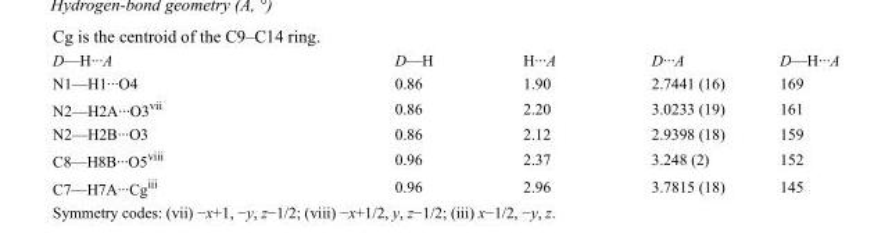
<table><tbody><tr><td>D—H···A</td><td>D—H</td><td>H···A</td><td>D···A</td><td>D—H···A</td></tr><tr><td>N1—H1···O4</td><td>0.86</td><td>1.90</td><td>2.7441 (16)</td><td>169</td></tr><tr><td>N2—H2A···O3<sup>vii</sup></td><td>0.86</td><td>2.20</td><td>3.0233 (19)</td><td>161</td></tr><tr><td>N2—H2B···O3</td><td>0.86</td><td>2.12</td><td>2.9398 (18)</td><td>159</td></tr><tr><td>C8—H8B···O5<sup>viii</sup></td><td>0.96</td><td>2.37</td><td>3.248 (2)</td><td>152</td></tr><tr><td>C7—H7A···Cg<sup>iii</sup></td><td>0.96</td><td>2.96</td><td>3.7815 (18)</td><td>145</td></tr></tbody></table>